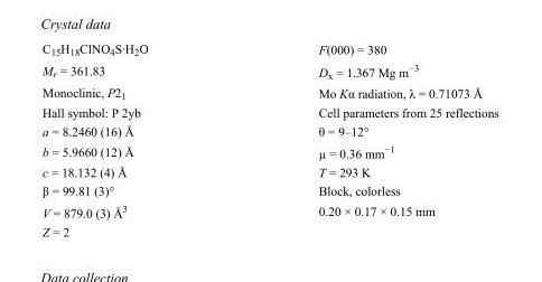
<table><tbody><tr><td>C<sub>15</sub>H<sub>18</sub>ClNO<sub>4</sub>S·H<sub>2</sub>O</td><td>F(000) = 380</td></tr><tr><td>M<sub>r</sub> = 361.83</td><td>D<sub>x</sub> = 1.367 Mg m<sup>−3</sup></td></tr><tr><td>Monoclinic, P2<sub>1</sub></td><td>Mo Kα radiation, λ = 0.71073 Å</td></tr><tr><td>Hall symbol: P 2yb</td><td>Cell parameters from 25 reflections</td></tr><tr><td>a = 8.2460 (16) Å</td><td>θ = 9–12°</td></tr><tr><td>b = 5.9660 (12) Å</td><td>µ = 0.36 mm<sup>−1</sup></td></tr><tr><td>c = 18.132 (4) Å</td><td>T = 293 K</td></tr><tr><td>β = 99.81 (3)°</td><td>Block, colorless</td></tr><tr><td>V = 879.0 (3) Å<sup>3</sup></td><td>0.20 × 0.17 × 0.15 mm</td></tr><tr><td>Z = 2</td><td></td></tr></tbody></table>